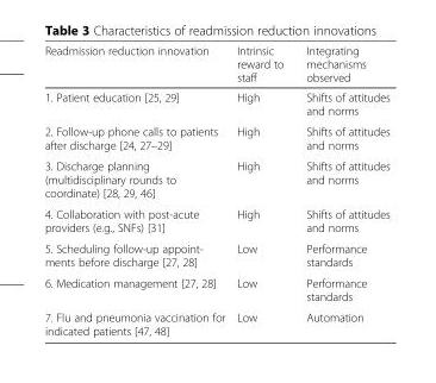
<table><thead><tr><td>Readmission reduction innovation</td><td>Intrinsic reward to staff</td><td>Integrating mechanisms observed</td></tr></thead><tbody><tr><td>1. Patient education [25, 29]</td><td>High</td><td>Shifts of attitudes and norms</td></tr><tr><td>2. Follow-up phone calls to patients after discharge [24, 27–29]</td><td>High</td><td>Shifts of attitudes and norms</td></tr><tr><td>3. Discharge planning (multidisciplinary rounds to coordinate) [28, 29, 46]</td><td>High</td><td>Shifts of attitudes and norms</td></tr><tr><td>4. Collaboration with post-acute providers (e.g., SNFs) [31]</td><td>High</td><td>Shifts of attitudes and norms</td></tr><tr><td>5. Scheduling follow-up appoint- ments before discharge [27, 28]</td><td>Low</td><td>Performance standards</td></tr><tr><td>6. Medication management [27, 28]</td><td>Low</td><td>Performance standards</td></tr><tr><td>7. Flu and pneumonia vaccination for indicated patients [47, 48]</td><td>Low</td><td>Automation</td></tr></tbody></table>